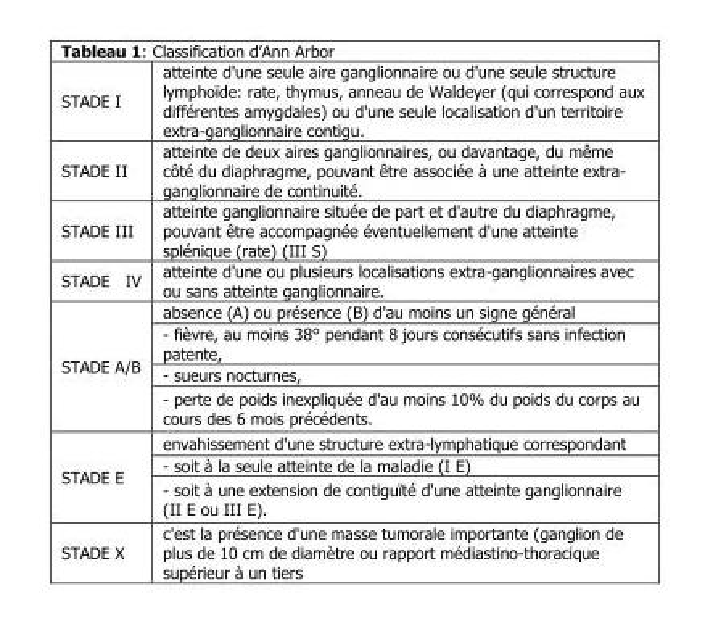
<table><tbody><tr><td>STADE I</td><td>atteinte d&#x27;une seule aire ganglionnaire ou d&#x27;une seule structure lymphoïde: rate, thymus, anneau de Waldeyer (qui correspond aux différentes amygdales) ou d&#x27;une seule localisation d&#x27;un territoire extra-ganglionnaire contigu.</td></tr><tr><td>STADE II</td><td>atteinte de deux aires ganglionnaires, ou davantage, du même côté du diaphragme, pouvant être associée à une atteinte extra- ganglionnaire de continuité.</td></tr><tr><td>STADE III</td><td>atteinte ganglionnaire située de part et d&#x27;autre du diaphragme, pouvant être accompagnée éventuellement d&#x27;une atteinte splénique (rate) (III S)</td></tr><tr><td>STADE IV</td><td>atteinte d&#x27;une ou plusieurs localisations extra-ganglionnaires avec ou sans atteinte ganglionnaire.</td></tr><tr><td rowspan="4">STADE A/B</td><td>absence (A) ou présence (B) d&#x27;au moins un signe général</td></tr><tr><td>- fièvre, au moins 38° pendant 8 jours consécutifs sans infection patente,</td></tr><tr><td>- sueurs nocturnes,</td></tr><tr><td>- perte de poids inexpliquée d&#x27;au moins 10% du poids du corps au cours des 6 mois précédents.</td></tr><tr><td rowspan="3">STADE E</td><td>envahissement d&#x27;une structure extra-lymphatique correspondant</td></tr><tr><td>- soit à la seule atteinte de la maladie (I E)</td></tr><tr><td>- soit à une extension de contiguïté d&#x27;une atteinte ganglionnaire (II E ou III E).</td></tr><tr><td>STADE X</td><td>c&#x27;est la présence d&#x27;une masse tumorale importante (ganglion de plus de 10 cm de diamètre ou rapport médiastino-thoracique supérieur à un tiers</td></tr></tbody></table>